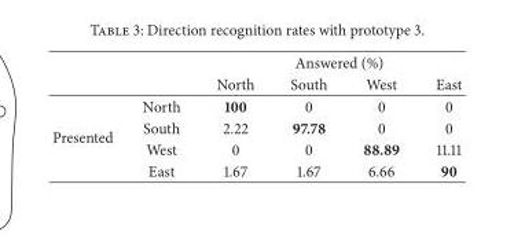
<table><thead><tr><td rowspan="2"></td><td rowspan="2"></td><td colspan="4">Answered (%)</td></tr><tr><td>North</td><td>South</td><td>West</td><td>East</td></tr></thead><tbody><tr><td rowspan="4">Presented</td><td>North</td><td>100</td><td>0</td><td>0</td><td>0</td></tr><tr><td>South</td><td>2.22</td><td>97.78</td><td>0</td><td>0</td></tr><tr><td>West</td><td>0</td><td>0</td><td>88.89</td><td>11.11</td></tr><tr><td>East</td><td>1.67</td><td>1.67</td><td>6.66</td><td>90</td></tr></tbody></table>